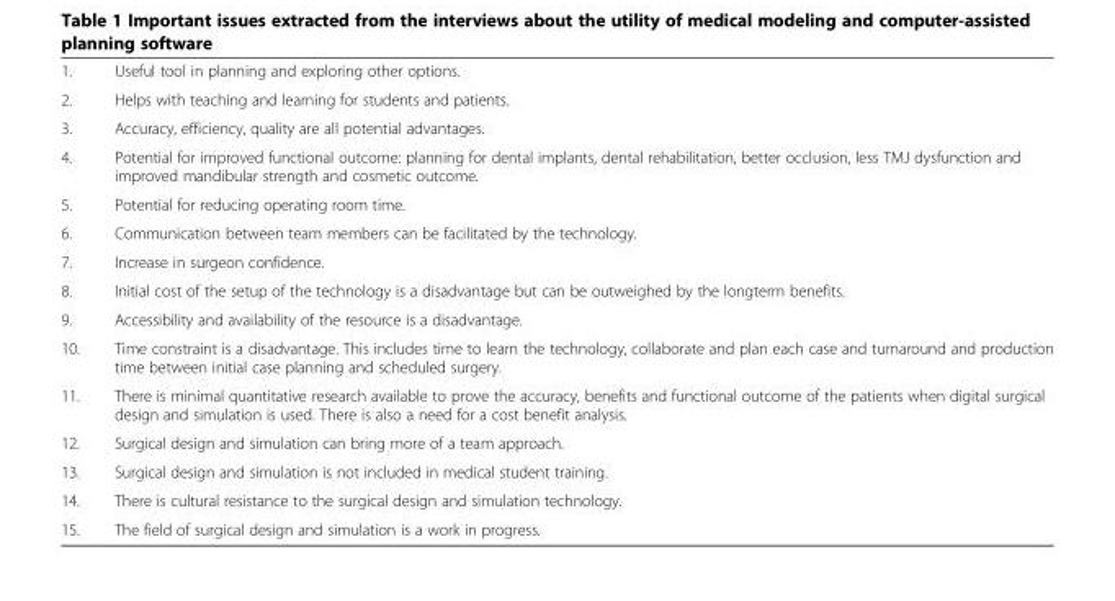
<table><tbody><tr><td>1.</td><td>Useful tool in planning and exploring other options.</td></tr><tr><td>2.</td><td>Helps with teaching and learning for students and patients.</td></tr><tr><td>3.</td><td>Accuracy, efficiency, quality are all potential advantages.</td></tr><tr><td>4.</td><td>Potential for improved functional outcome: planning for dental implants, dental rehabilitation, better occlusion, less TMJ dysfunction and improved mandibular strength and cosmetic outcome.</td></tr><tr><td>5.</td><td>Potential for reducing operating room time.</td></tr><tr><td>6.</td><td>Communication between team members can be facilitated by the technology.</td></tr><tr><td>7.</td><td>Increase in surgeon confidence.</td></tr><tr><td>8.</td><td>Initial cost of the setup of the technology is a disadvantage but can be outweighed by the longterm benefits.</td></tr><tr><td>9.</td><td>Accessibility and availability of the resource is a disadvantage.</td></tr><tr><td>10.</td><td>Time constraint is a disadvantage. This includes time to learn the technology, collaborate and plan each case and turnaround and production time between initial case planning and scheduled surgery.</td></tr><tr><td>11.</td><td>There is minimal quantitative research available to prove the accuracy, benefits and functional outcome of the patients when digital surgical design and simulation is used. There is also a need for a cost benefit analysis.</td></tr><tr><td>12.</td><td>Surgical design and simulation can bring more of a team approach.</td></tr><tr><td>13.</td><td>Surgical design and simulation is not included in medical student training.</td></tr><tr><td>14.</td><td>There is cultural resistance to the surgical design and simulation technology.</td></tr><tr><td>15.</td><td>The field of surgical design and simulation is a work in progress.</td></tr></tbody></table>